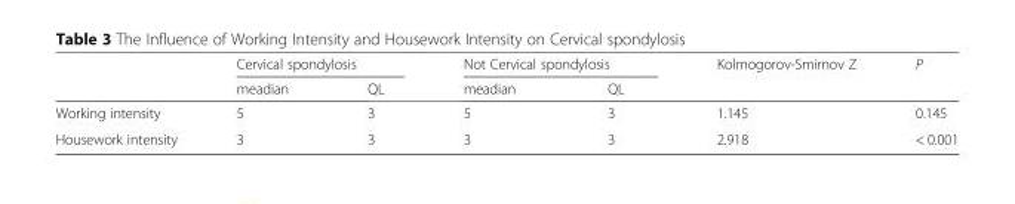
<table><thead><tr><td rowspan="2"></td><td colspan="2">Cervical spondylosis</td><td colspan="2">Not Cervical spondylosis</td><td rowspan="2">Kolmogorov-Smirnov Z</td><td rowspan="2">P</td></tr><tr><td>meadian</td><td>QL</td><td>meadian</td><td>QL</td></tr></thead><tbody><tr><td>Working intensity</td><td>5</td><td>3</td><td>5</td><td>3</td><td>1.145</td><td>0.145</td></tr><tr><td>Housework intensity</td><td>3</td><td>3</td><td>3</td><td>3</td><td>2.918</td><td>&lt; 0.001</td></tr></tbody></table>